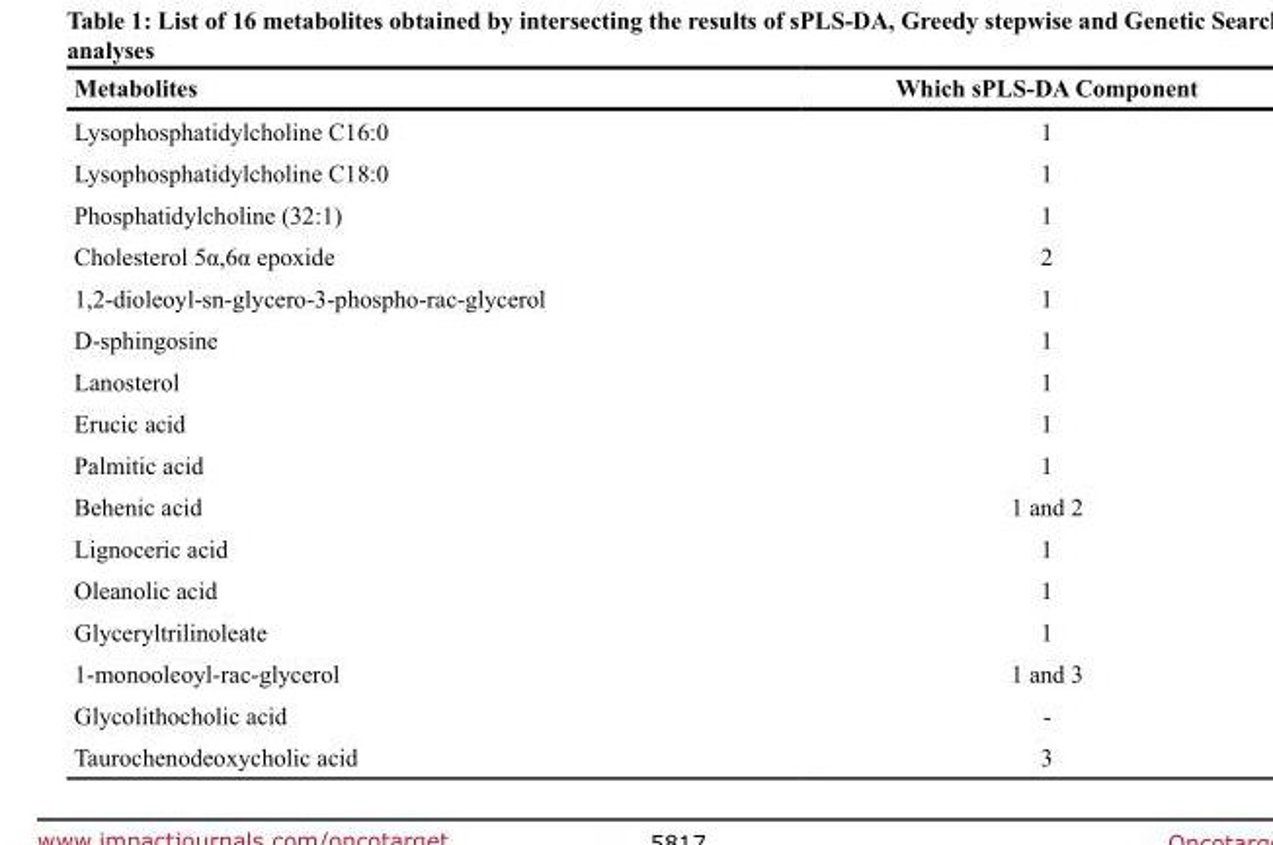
<table><thead><tr><td>Metabolites</td><td>Which sPLS-DA Component</td></tr></thead><tbody><tr><td>Lysophosphatidylcholine C16:0</td><td>1</td></tr><tr><td>Lysophosphatidylcholine C18:0</td><td>1</td></tr><tr><td>Phosphatidylcholine (32:1)</td><td>1</td></tr><tr><td>Cholesterol 5α,6α epoxide</td><td>2</td></tr><tr><td>1,2-dioleoyl-sn-glycero-3-phospho-rac-glycerol</td><td>1</td></tr><tr><td>D-sphingosine</td><td>1</td></tr><tr><td>Lanosterol</td><td>1</td></tr><tr><td>Erucic acid</td><td>1</td></tr><tr><td>Palmitic acid</td><td>1</td></tr><tr><td>Behenic acid</td><td>1 and 2</td></tr><tr><td>Lignoceric acid</td><td>1</td></tr><tr><td>Oleanolic acid</td><td>1</td></tr><tr><td>Glyceryltrilinoleate</td><td>1</td></tr><tr><td>1-monooleoyl-rac-glycerol</td><td>1 and 3</td></tr><tr><td>Glycolithocholic acid</td><td>-</td></tr><tr><td>Taurochenodeoxycholic acid</td><td>3</td></tr></tbody></table>